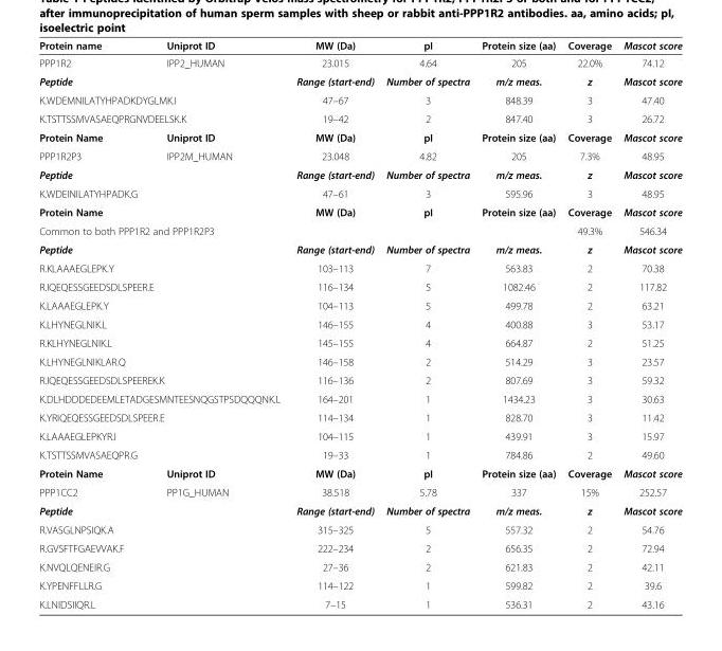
<table><thead><tr><td>Protein name</td><td>Uniprot ID</td><td>MW (Da)</td><td>pI</td><td>Protein size (aa)</td><td>Coverage</td><td>Mascot score</td></tr></thead><tbody><tr><td>PPP1R2</td><td>IPP2_HUMAN</td><td>23.015</td><td>4.64</td><td>205</td><td>22.0%</td><td>74.12</td></tr><tr><td colspan="2">Peptide</td><td>Range (start-end)</td><td>Number of spectra</td><td>m/z meas.</td><td>z</td><td>Mascot score</td></tr><tr><td colspan="2">K.WDEMNILATYHPADKDYGLMK.I</td><td>47–67</td><td>3</td><td>848.39</td><td>3</td><td>47.40</td></tr><tr><td colspan="2">K.TSTTSSMVASAEQPRGNVDEELSK.K</td><td>19–42</td><td>2</td><td>847.40</td><td>3</td><td>26.72</td></tr><tr><td>Protein Name</td><td>Uniprot ID</td><td>MW (Da)</td><td>pI</td><td>Protein size (aa)</td><td>Coverage</td><td>Mascot score</td></tr><tr><td>PPP1R2P3</td><td>IPP2M_HUMAN</td><td>23.048</td><td>4.82</td><td>205</td><td>7.3%</td><td>48.95</td></tr><tr><td colspan="2">Peptide</td><td>Range (start-end)</td><td>Number of spectra</td><td>m/z meas.</td><td>z</td><td>Mascot score</td></tr><tr><td colspan="2">K.WDEINILATYHPADK.G</td><td>47–61</td><td>3</td><td>595.96</td><td>3</td><td>48.95</td></tr><tr><td colspan="2">Protein Name</td><td>MW (Da)</td><td>pI</td><td>Protein size (aa)</td><td>Coverage</td><td>Mascot score</td></tr><tr><td colspan="2">Common to both PPP1R2 and PPP1R2P3</td><td></td><td></td><td></td><td>49.3%</td><td>546.34</td></tr><tr><td colspan="2">Peptide</td><td>Range (start-end)</td><td>Number of spectra</td><td>m/z meas.</td><td>z</td><td>Mascot score</td></tr><tr><td colspan="2">R.KLAAAEGLEPK.Y</td><td>103–113</td><td>7</td><td>563.83</td><td>2</td><td>70.38</td></tr><tr><td colspan="2">R.IQEQESSGEEDSDLSPEER.E</td><td>116–134</td><td>5</td><td>1082.46</td><td>2</td><td>117.82</td></tr><tr><td colspan="2">K.LAAAEGLEPK.Y</td><td>104–113</td><td>5</td><td>499.78</td><td>2</td><td>63.21</td></tr><tr><td colspan="2">K.LHYNEGLNIK.L</td><td>146–155</td><td>4</td><td>400.88</td><td>3</td><td>53.17</td></tr><tr><td colspan="2">R.KLHYNEGLNIK.L</td><td>145–155</td><td>4</td><td>664.87</td><td>2</td><td>51.25</td></tr><tr><td colspan="2">K.LHYNEGLNIKLAR.Q</td><td>146–158</td><td>2</td><td>514.29</td><td>3</td><td>23.57</td></tr><tr><td colspan="2">R.IQEQESSGEEDSDLSPEEREK.K</td><td>116–136</td><td>2</td><td>807.69</td><td>3</td><td>59.32</td></tr><tr><td colspan="2">K.DLHDDDEDEEMLETADGESMNTEESNQGSTPSDQQQNK.L</td><td>164–201</td><td>1</td><td>1434.23</td><td>3</td><td>30.63</td></tr><tr><td colspan="2">K.YRIQEQESSGEEDSDLSPEER.E</td><td>114–134</td><td>1</td><td>828.70</td><td>3</td><td>11.42</td></tr><tr><td colspan="2">K.LAAAEGLEPKYR.I</td><td>104–115</td><td>1</td><td>439.91</td><td>3</td><td>15.97</td></tr><tr><td colspan="2">K.TSTTSSMVASAEQPR.G</td><td>19–33</td><td>1</td><td>784.86</td><td>2</td><td>49.60</td></tr><tr><td>Protein Name</td><td>Uniprot ID</td><td>MW (Da)</td><td>pI</td><td>Protein size (aa)</td><td>Coverage</td><td>Mascot score</td></tr><tr><td>PPP1CC2</td><td>PP1G_HUMAN</td><td>38.518</td><td>5.78</td><td>337</td><td>15%</td><td>252.57</td></tr><tr><td colspan="2">Peptide</td><td>Range (start-end)</td><td>Number of spectra</td><td>m/z meas.</td><td>z</td><td>Mascot score</td></tr><tr><td colspan="2">R.VASGLNPSIQK.A</td><td>315–325</td><td>5</td><td>557.32</td><td>2</td><td>54.76</td></tr><tr><td colspan="2">R.GVSFTFGAEVVAK.F</td><td>222–234</td><td>2</td><td>656.35</td><td>2</td><td>72.94</td></tr><tr><td colspan="2">K.NVQLQENEIR.G</td><td>27–36</td><td>2</td><td>621.83</td><td>2</td><td>42.11</td></tr><tr><td colspan="2">K.YPENFFLLR.G</td><td>114–122</td><td>1</td><td>599.82</td><td>2</td><td>39.6</td></tr><tr><td colspan="2">K.LNIDSIIQR.L</td><td>7–15</td><td>1</td><td>536.31</td><td>2</td><td>43.16</td></tr></tbody></table>